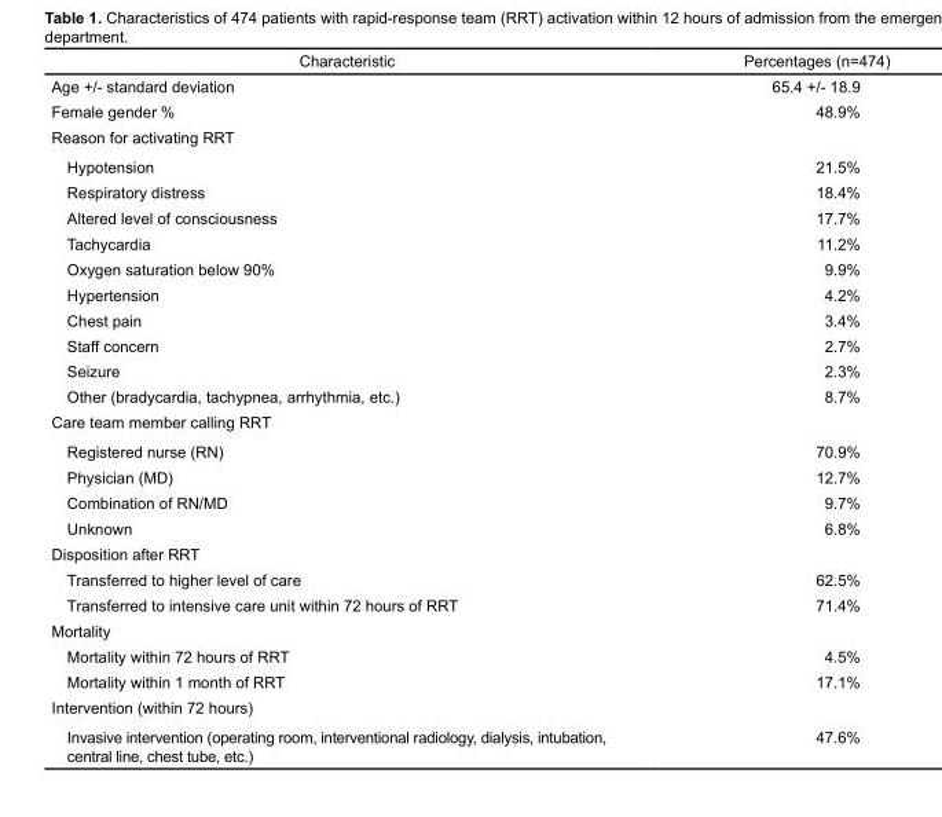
<table><thead><tr><td>Characteristic</td><td>Percentages (n=474)</td></tr></thead><tbody><tr><td>Age +/- standard deviation</td><td>65.4 +/- 18.9</td></tr><tr><td>Female gender %</td><td>48.9%</td></tr><tr><td colspan="2">Reason for activating RRT</td></tr><tr><td>Hypotension</td><td>21.5%</td></tr><tr><td>Respiratory distress</td><td>18.4%</td></tr><tr><td>Altered level of consciousness</td><td>17.7%</td></tr><tr><td>Tachycardia</td><td>11.2%</td></tr><tr><td>Oxygen saturation below 90%</td><td>9.9%</td></tr><tr><td>Hypertension</td><td>4.2%</td></tr><tr><td>Chest pain</td><td>3.4%</td></tr><tr><td>Staff concern</td><td>2.7%</td></tr><tr><td>Seizure</td><td>2.3%</td></tr><tr><td>Other (bradycardia, tachypnea, arrhythmia, etc.)</td><td>8.7%</td></tr><tr><td colspan="2">Care team member calling RRT</td></tr><tr><td>Registered nurse (RN)</td><td>70.9%</td></tr><tr><td>Physician (MD)</td><td>12.7%</td></tr><tr><td>Combination of RN/MD</td><td>9.7%</td></tr><tr><td>Unknown</td><td>6.8%</td></tr><tr><td colspan="2">Disposition after RRT</td></tr><tr><td>Transferred to higher level of care</td><td>62.5%</td></tr><tr><td>Transferred to intensive care unit within 72 hours of RRT</td><td>71.4%</td></tr><tr><td colspan="2">Mortality</td></tr><tr><td>Mortality within 72 hours of RRT</td><td>4.5%</td></tr><tr><td>Mortality within 1 month of RRT</td><td>17.1%</td></tr><tr><td colspan="2">Intervention (within 72 hours)</td></tr><tr><td>Invasive intervention (operating room, interventional radiology, dialysis, intubation, central line, chest tube, etc.)</td><td>47.6%</td></tr></tbody></table>